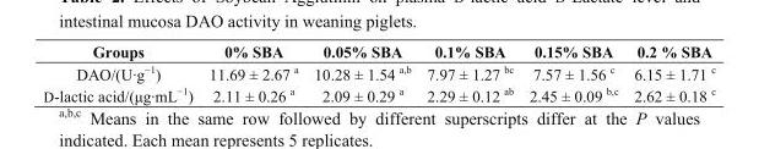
<table><thead><tr><td>Groups</td><td>0% SBA</td><td>0.05% SBA</td><td>0.1% SBA</td><td>0.15% SBA</td><td>0.2 % SBA</td></tr></thead><tbody><tr><td>DAO/(U·g<sup>−1</sup>)</td><td>11.69 ± 2.67 a</td><td>10.28 ± 1.54 a,b</td><td>7.97 ± 1.27 bc</td><td>7.57 ± 1.56 c</td><td>6.15 ± 1.71 c</td></tr><tr><td>D-lactic acid/(μg·mL<sup>−1</sup>)</td><td>2.11 ± 0.26 a</td><td>2.09 ± 0.29 a</td><td>2.29 ± 0.12 ab</td><td>2.45 ± 0.09 b,c</td><td>2.62 ± 0.18 c</td></tr></tbody></table>